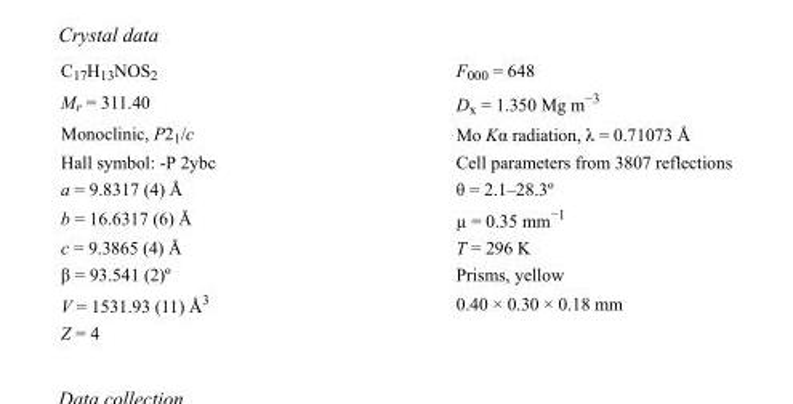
<table><tbody><tr><td>C<sub>17</sub>H<sub>13</sub>NOS<sub>2</sub></td><td>F000 = 648</td></tr><tr><td>M<sub>r</sub> = 311.40</td><td>D<sub>x</sub> = 1.350 Mg m<sup>−3</sup></td></tr><tr><td>Monoclinic, P2<sub>1</sub>/c</td><td>Mo Kα radiation, λ = 0.71073 Å</td></tr><tr><td>Hall symbol: -P 2ybc</td><td>Cell parameters from 3807 reflections</td></tr><tr><td>a = 9.8317 (4) Å</td><td>θ = 2.1–28.3º</td></tr><tr><td>b = 16.6317 (6) Å</td><td>µ = 0.35 mm<sup>−1</sup></td></tr><tr><td>c = 9.3865 (4) Å</td><td>T = 296 K</td></tr><tr><td>β = 93.541 (2)º</td><td>Prisms, yellow</td></tr><tr><td>V = 1531.93 (11) Å<sup>3</sup></td><td>0.40 × 0.30 × 0.18 mm</td></tr><tr><td>Z = 4</td><td></td></tr></tbody></table>